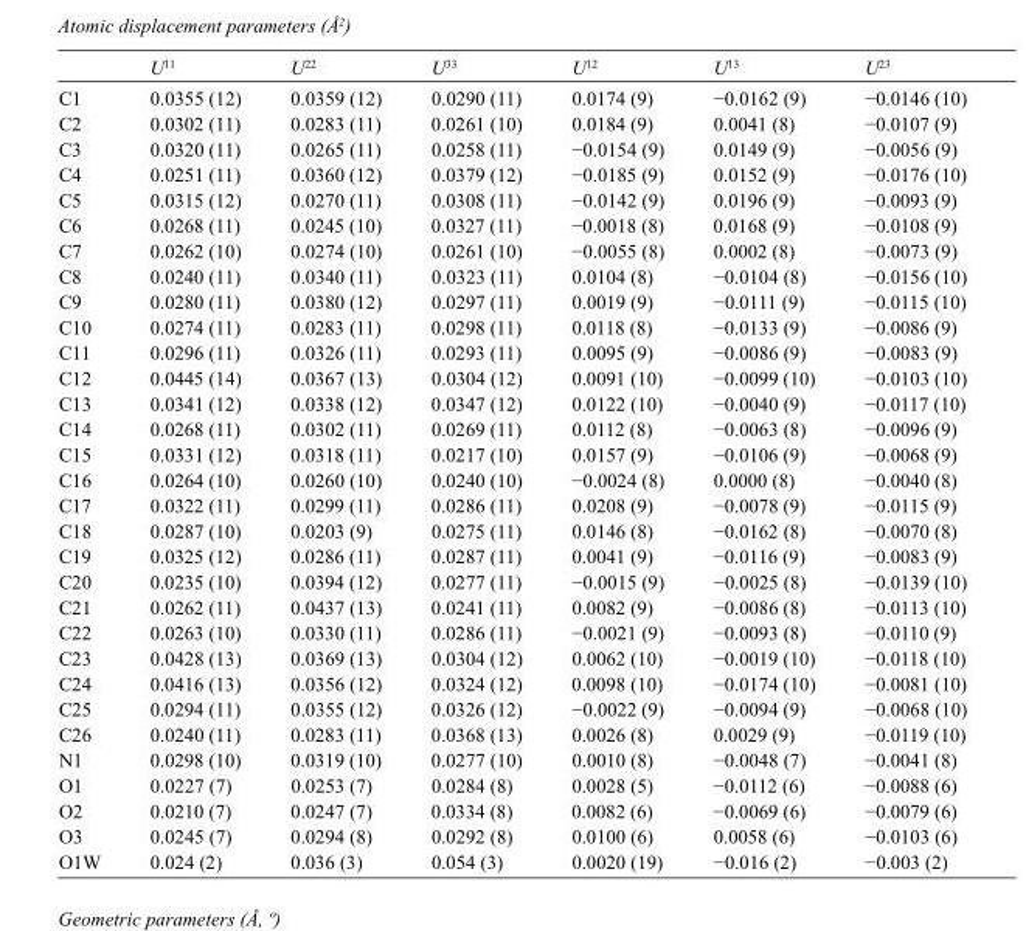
<table><thead><tr><td></td><td>U<sup>11</sup></td><td>U<sup>22</sup></td><td>U<sup>33</sup></td><td>U<sup>12</sup></td><td>U<sup>13</sup></td><td>U<sup>23</sup></td></tr></thead><tbody><tr><td>C1</td><td>0.0355 (12)</td><td>0.0359 (12)</td><td>0.0290 (11)</td><td>0.0174 (9)</td><td>−0.0162 (9)</td><td>−0.0146 (10)</td></tr><tr><td>C2</td><td>0.0302 (11)</td><td>0.0283 (11)</td><td>0.0261 (10)</td><td>0.0184 (9)</td><td>0.0041 (8)</td><td>−0.0107 (9)</td></tr><tr><td>C3</td><td>0.0320 (11)</td><td>0.0265 (11)</td><td>0.0258 (11)</td><td>−0.0154 (9)</td><td>0.0149 (9)</td><td>−0.0056 (9)</td></tr><tr><td>C4</td><td>0.0251 (11)</td><td>0.0360 (12)</td><td>0.0379 (12)</td><td>−0.0185 (9)</td><td>0.0152 (9)</td><td>−0.0176 (10)</td></tr><tr><td>C5</td><td>0.0315 (12)</td><td>0.0270 (11)</td><td>0.0308 (11)</td><td>−0.0142 (9)</td><td>0.0196 (9)</td><td>−0.0093 (9)</td></tr><tr><td>C6</td><td>0.0268 (11)</td><td>0.0245 (10)</td><td>0.0327 (11)</td><td>−0.0018 (8)</td><td>0.0168 (9)</td><td>−0.0108 (9)</td></tr><tr><td>C7</td><td>0.0262 (10)</td><td>0.0274 (10)</td><td>0.0261 (10)</td><td>−0.0055 (8)</td><td>0.0002 (8)</td><td>−0.0073 (9)</td></tr><tr><td>C8</td><td>0.0240 (11)</td><td>0.0340 (11)</td><td>0.0323 (11)</td><td>0.0104 (8)</td><td>−0.0104 (8)</td><td>−0.0156 (10)</td></tr><tr><td>C9</td><td>0.0280 (11)</td><td>0.0380 (12)</td><td>0.0297 (11)</td><td>0.0019 (9)</td><td>−0.0111 (9)</td><td>−0.0115 (10)</td></tr><tr><td>C10</td><td>0.0274 (11)</td><td>0.0283 (11)</td><td>0.0298 (11)</td><td>0.0118 (8)</td><td>−0.0133 (9)</td><td>−0.0086 (9)</td></tr><tr><td>C11</td><td>0.0296 (11)</td><td>0.0326 (11)</td><td>0.0293 (11)</td><td>0.0095 (9)</td><td>−0.0086 (9)</td><td>−0.0083 (9)</td></tr><tr><td>C12</td><td>0.0445 (14)</td><td>0.0367 (13)</td><td>0.0304 (12)</td><td>0.0091 (10)</td><td>−0.0099 (10)</td><td>−0.0103 (10)</td></tr><tr><td>C13</td><td>0.0341 (12)</td><td>0.0338 (12)</td><td>0.0347 (12)</td><td>0.0122 (10)</td><td>−0.0040 (9)</td><td>−0.0117 (10)</td></tr><tr><td>C14</td><td>0.0268 (11)</td><td>0.0302 (11)</td><td>0.0269 (11)</td><td>0.0112 (8)</td><td>−0.0063 (8)</td><td>−0.0096 (9)</td></tr><tr><td>C15</td><td>0.0331 (12)</td><td>0.0318 (11)</td><td>0.0217 (10)</td><td>0.0157 (9)</td><td>−0.0106 (9)</td><td>−0.0068 (9)</td></tr><tr><td>C16</td><td>0.0264 (10)</td><td>0.0260 (10)</td><td>0.0240 (10)</td><td>−0.0024 (8)</td><td>0.0000 (8)</td><td>−0.0040 (8)</td></tr><tr><td>C17</td><td>0.0322 (11)</td><td>0.0299 (11)</td><td>0.0286 (11)</td><td>0.0208 (9)</td><td>−0.0078 (9)</td><td>−0.0115 (9)</td></tr><tr><td>C18</td><td>0.0287 (10)</td><td>0.0203 (9)</td><td>0.0275 (11)</td><td>0.0146 (8)</td><td>−0.0162 (8)</td><td>−0.0070 (8)</td></tr><tr><td>C19</td><td>0.0325 (12)</td><td>0.0286 (11)</td><td>0.0287 (11)</td><td>0.0041 (9)</td><td>−0.0116 (9)</td><td>−0.0083 (9)</td></tr><tr><td>C20</td><td>0.0235 (10)</td><td>0.0394 (12)</td><td>0.0277 (11)</td><td>−0.0015 (9)</td><td>−0.0025 (8)</td><td>−0.0139 (10)</td></tr><tr><td>C21</td><td>0.0262 (11)</td><td>0.0437 (13)</td><td>0.0241 (11)</td><td>0.0082 (9)</td><td>−0.0086 (8)</td><td>−0.0113 (10)</td></tr><tr><td>C22</td><td>0.0263 (10)</td><td>0.0330 (11)</td><td>0.0286 (11)</td><td>−0.0021 (9)</td><td>−0.0093 (8)</td><td>−0.0110 (9)</td></tr><tr><td>C23</td><td>0.0428 (13)</td><td>0.0369 (13)</td><td>0.0304 (12)</td><td>0.0062 (10)</td><td>−0.0019 (10)</td><td>−0.0118 (10)</td></tr><tr><td>C24</td><td>0.0416 (13)</td><td>0.0356 (12)</td><td>0.0324 (12)</td><td>0.0098 (10)</td><td>−0.0174 (10)</td><td>−0.0081 (10)</td></tr><tr><td>C25</td><td>0.0294 (11)</td><td>0.0355 (12)</td><td>0.0326 (12)</td><td>−0.0022 (9)</td><td>−0.0094 (9)</td><td>−0.0068 (10)</td></tr><tr><td>C26</td><td>0.0240 (11)</td><td>0.0283 (11)</td><td>0.0368 (13)</td><td>0.0026 (8)</td><td>0.0029 (9)</td><td>−0.0119 (10)</td></tr><tr><td>N1</td><td>0.0298 (10)</td><td>0.0319 (10)</td><td>0.0277 (10)</td><td>0.0010 (8)</td><td>−0.0048 (7)</td><td>−0.0041 (8)</td></tr><tr><td>O1</td><td>0.0227 (7)</td><td>0.0253 (7)</td><td>0.0284 (8)</td><td>0.0028 (5)</td><td>−0.0112 (6)</td><td>−0.0088 (6)</td></tr><tr><td>O2</td><td>0.0210 (7)</td><td>0.0247 (7)</td><td>0.0334 (8)</td><td>0.0082 (6)</td><td>−0.0069 (6)</td><td>−0.0079 (6)</td></tr><tr><td>O3</td><td>0.0245 (7)</td><td>0.0294 (8)</td><td>0.0292 (8)</td><td>0.0100 (6)</td><td>0.0058 (6)</td><td>−0.0103 (6)</td></tr><tr><td>O1W</td><td>0.024 (2)</td><td>0.036 (3)</td><td>0.054 (3)</td><td>0.0020 (19)</td><td>−0.016 (2)</td><td>−0.003 (2)</td></tr></tbody></table>